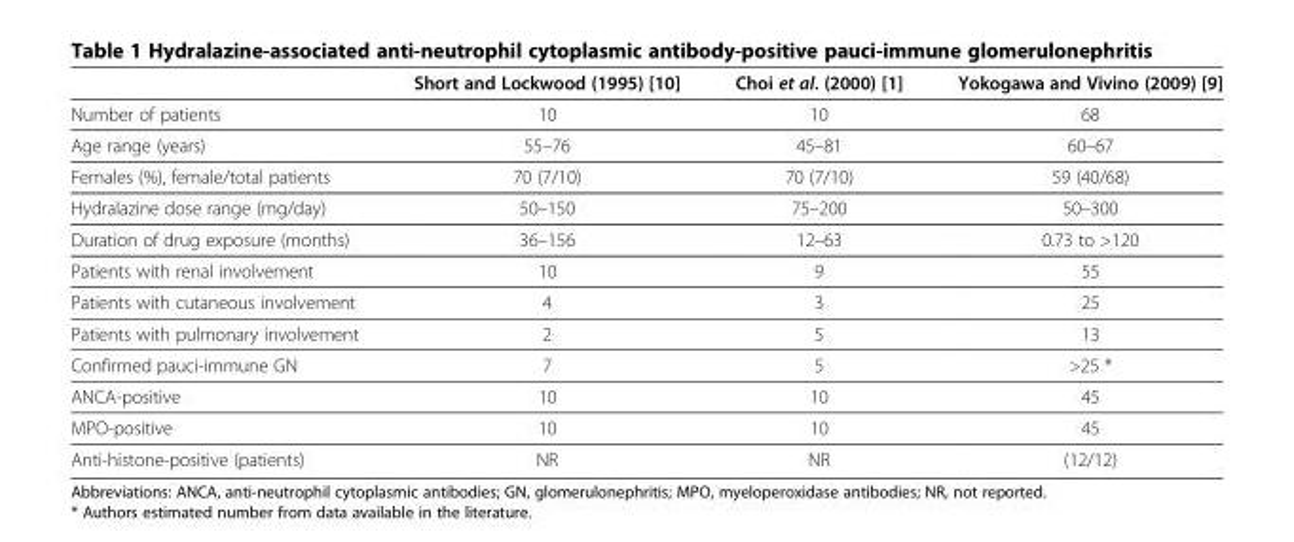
<table><thead><tr><td></td><td>Short and Lockwood (1995) [10]</td><td>Choi et al. (2000) [1]</td><td>Yokogawa and Vivino (2009) [9]</td></tr></thead><tbody><tr><td>Number of patients</td><td>10</td><td>10</td><td>68</td></tr><tr><td>Age range (years)</td><td>55–76</td><td>45–81</td><td>60–67</td></tr><tr><td>Females (%), female/total patients</td><td>70 (7/10)</td><td>70 (7/10)</td><td>59 (40/68)</td></tr><tr><td>Hydralazine dose range (mg/day)</td><td>50–150</td><td>75–200</td><td>50–300</td></tr><tr><td>Duration of drug exposure (months)</td><td>36–156</td><td>12–63</td><td>0.73 to &gt;120</td></tr><tr><td>Patients with renal involvement</td><td>10</td><td>9</td><td>55</td></tr><tr><td>Patients with cutaneous involvement</td><td>4</td><td>3</td><td>25</td></tr><tr><td>Patients with pulmonary involvement</td><td>2</td><td>5</td><td>13</td></tr><tr><td>Confirmed pauci-immune GN</td><td>7</td><td>5</td><td>&gt;25 *</td></tr><tr><td>ANCA-positive</td><td>10</td><td>10</td><td>45</td></tr><tr><td>MPO-positive</td><td>10</td><td>10</td><td>45</td></tr><tr><td>Anti-histone-positive (patients)</td><td>NR</td><td>NR</td><td>(12/12)</td></tr></tbody></table>